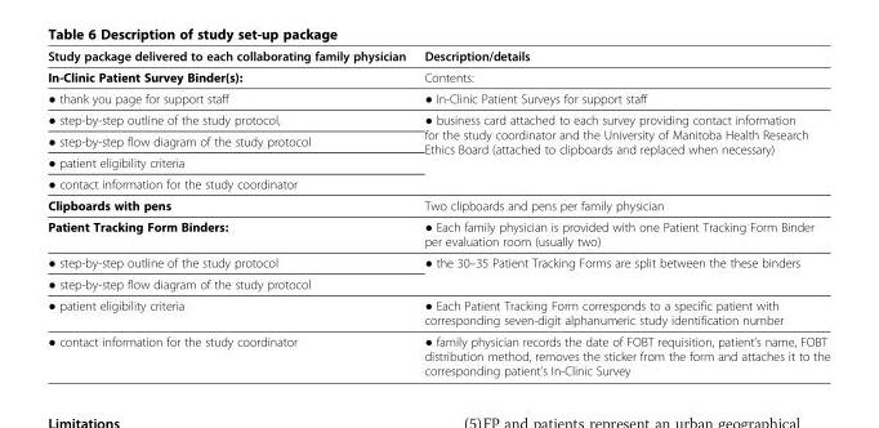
<table><thead><tr><td>Study package delivered to each collaborating family physician</td><td>Description/details</td></tr></thead><tbody><tr><td>In-Clinic Patient Survey Binder(s):</td><td>Contents:</td></tr><tr><td>● thank you page for support staff</td><td>● In-Clinic Patient Surveys for support staff</td></tr><tr><td>● step-by-step outline of the study protocol,</td><td rowspan="3">● business card attached to each survey providing contact information for the study coordinator and the University of Manitoba Health Research Ethics Board (attached to clipboards and replaced when necessary)</td></tr><tr><td>● step-by-step flow diagram of the study protocol</td></tr><tr><td>● patient eligibility criteria</td></tr><tr><td colspan="2">● contact information for the study coordinator</td></tr><tr><td>Clipboards with pens</td><td>Two clipboards and pens per family physician</td></tr><tr><td>Patient Tracking Form Binders:</td><td>● Each family physician is provided with one Patient Tracking Form Binder per evaluation room (usually two)</td></tr><tr><td>● step-by-step outline of the study protocol</td><td>● the 30–35 Patient Tracking Forms are split between the these binders</td></tr><tr><td colspan="2">● step-by-step flow diagram of the study protocol</td></tr><tr><td>● patient eligibility criteria</td><td>● Each Patient Tracking Form corresponds to a specific patient with corresponding seven-digit alphanumeric study identification number</td></tr><tr><td>● contact information for the study coordinator</td><td>● family physician records the date of FOBT requisition, patient’s name, FOBT distribution method, removes the sticker from the form and attaches it to the corresponding patient’s In-Clinic Survey</td></tr></tbody></table>